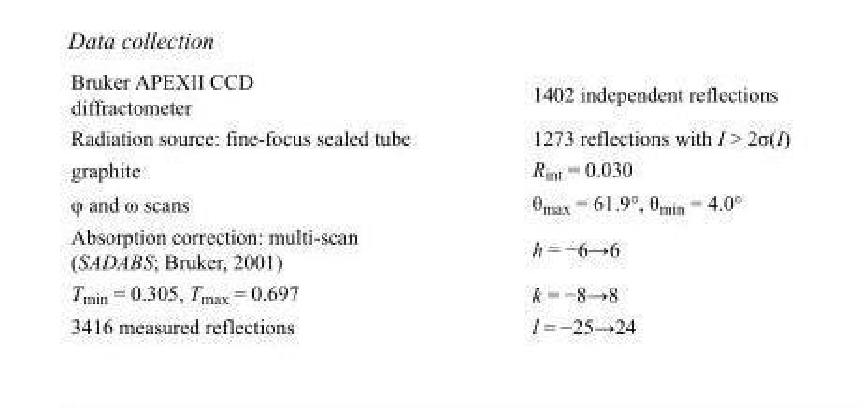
<table><tbody><tr><td>Bruker APEXII CCD diffractometer</td><td>1402 independent reflections</td></tr><tr><td>Radiation source: fine-focus sealed tube</td><td>1273 reflections with I &gt; 2σ(I)</td></tr><tr><td>graphite</td><td>R<sub>int</sub> = 0.030</td></tr><tr><td>φ and ω scans</td><td>θ<sub>max</sub> = 61.9°, θ<sub>min</sub> = 4.0°</td></tr><tr><td>Absorption correction: multi-scan (SADABS; Bruker, 2001)</td><td>h = −6→6</td></tr><tr><td>T<sub>min</sub> = 0.305, T<sub>max</sub> = 0.697</td><td>k = −8→8</td></tr><tr><td>3416 measured reflections</td><td>l = −25→24</td></tr></tbody></table>